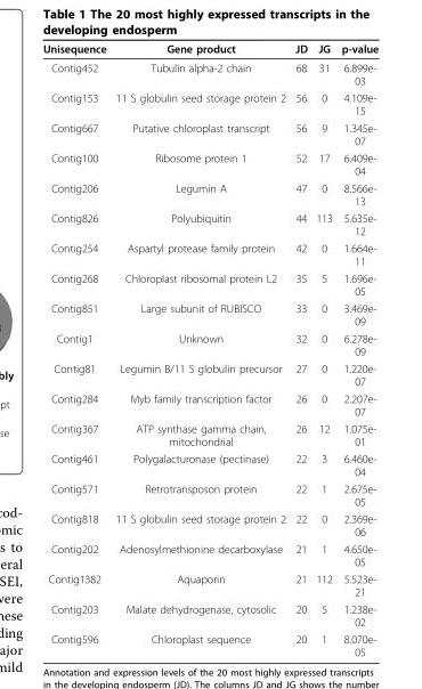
<table><thead><tr><td>Unisequence</td><td>Gene product</td><td>JD</td><td>JG</td><td>p-value</td></tr></thead><tbody><tr><td>Contig452</td><td>Tubulin alpha-2 chain</td><td>68</td><td>31</td><td>6.899e- 03</td></tr><tr><td>Contig153</td><td>11 S globulin seed storage protein 2</td><td>56</td><td>0</td><td>4.109e- 15</td></tr><tr><td>Contig667</td><td>Putative chloroplast transcript</td><td>56</td><td>9</td><td>1.345e- 07</td></tr><tr><td>Contig100</td><td>Ribosome protein 1</td><td>52</td><td>17</td><td>6.409e- 04</td></tr><tr><td>Contig206</td><td>Legumin A</td><td>47</td><td>0</td><td>8.566e- 13</td></tr><tr><td>Contig826</td><td>Polyubiquitin</td><td>44</td><td>113</td><td>5.635e- 12</td></tr><tr><td>Contig254</td><td>Aspartyl protease family protein</td><td>42</td><td>0</td><td>1.664e- 11</td></tr><tr><td>Contig268</td><td>Chloroplast ribosomal protein L2</td><td>35</td><td>5</td><td>1.696e- 05</td></tr><tr><td>Contig851</td><td>Large subunit of RUBISCO</td><td>33</td><td>0</td><td>3.469e- 09</td></tr><tr><td>Contig1</td><td>Unknown</td><td>32</td><td>0</td><td>6.278e- 09</td></tr><tr><td>Contig81</td><td>Legumin B/11 S globulin precursor</td><td>27</td><td>0</td><td>1.220e- 07</td></tr><tr><td>Contig284</td><td>Myb family transcription factor</td><td>26</td><td>0</td><td>2.207e- 07</td></tr><tr><td>Contig367</td><td>ATP synthase gamma chain, mitochondrial</td><td>26</td><td>12</td><td>1.075e- 01</td></tr><tr><td>Contig461</td><td>Polygalacturonase (pectinase)</td><td>22</td><td>3</td><td>6.460e- 04</td></tr><tr><td>Contig571</td><td>Retrotransposon protein</td><td>22</td><td>1</td><td>2.675e- 05</td></tr><tr><td>Contig818</td><td>11 S globulin seed storage protein 2</td><td>22</td><td>0</td><td>2.369e- 06</td></tr><tr><td>Contig202</td><td>Adenosylmethionine decarboxylase</td><td>21</td><td>1</td><td>4.650e- 05</td></tr><tr><td>Contig1382</td><td>Aquaporin</td><td>21</td><td>112</td><td>5.523e- 21</td></tr><tr><td>Contig203</td><td>Malate dehydrogenase, cytosolic</td><td>20</td><td>5</td><td>1.238e- 02</td></tr><tr><td>Contig596</td><td>Chloroplast sequence</td><td>20</td><td>1</td><td>8.070e-</td></tr></tbody></table>